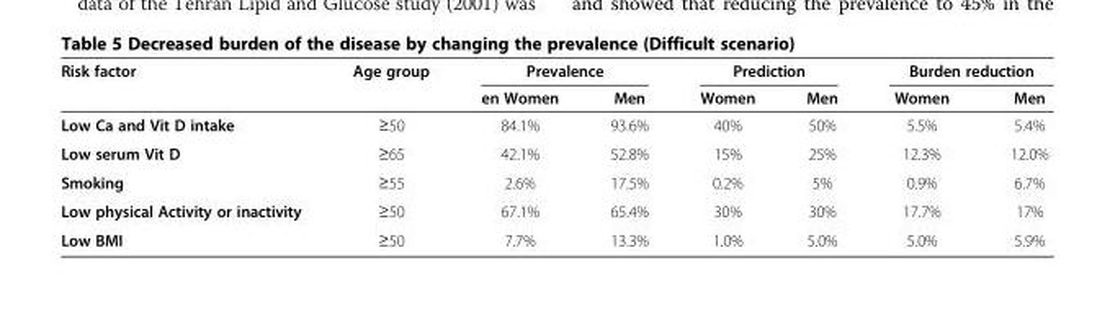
<table><thead><tr><td rowspan="2">Risk factor</td><td rowspan="2">Age group</td><td colspan="2">Prevalence</td><td colspan="2">Prediction</td><td colspan="2">Burden reduction</td></tr><tr><td>en Women</td><td>Men</td><td>Women</td><td>Men</td><td>Women</td><td>Men</td></tr></thead><tbody><tr><td>Low Ca and Vit D intake</td><td>≥50</td><td>84.1%</td><td>93.6%</td><td>40%</td><td>50%</td><td>5.5%</td><td>5.4%</td></tr><tr><td>Low serum Vit D</td><td>≥65</td><td>42.1%</td><td>52.8%</td><td>15%</td><td>25%</td><td>12.3%</td><td>12.0%</td></tr><tr><td>Smoking</td><td>≥55</td><td>2.6%</td><td>17.5%</td><td>0.2%</td><td>5%</td><td>0.9%</td><td>6.7%</td></tr><tr><td>Low physical Activity or inactivity</td><td>≥50</td><td>67.1%</td><td>65.4%</td><td>30%</td><td>30%</td><td>17.7%</td><td>17%</td></tr><tr><td>Low BMI</td><td>≥50</td><td>7.7%</td><td>13.3%</td><td>1.0%</td><td>5.0%</td><td>5.0%</td><td>5.9%</td></tr></tbody></table>